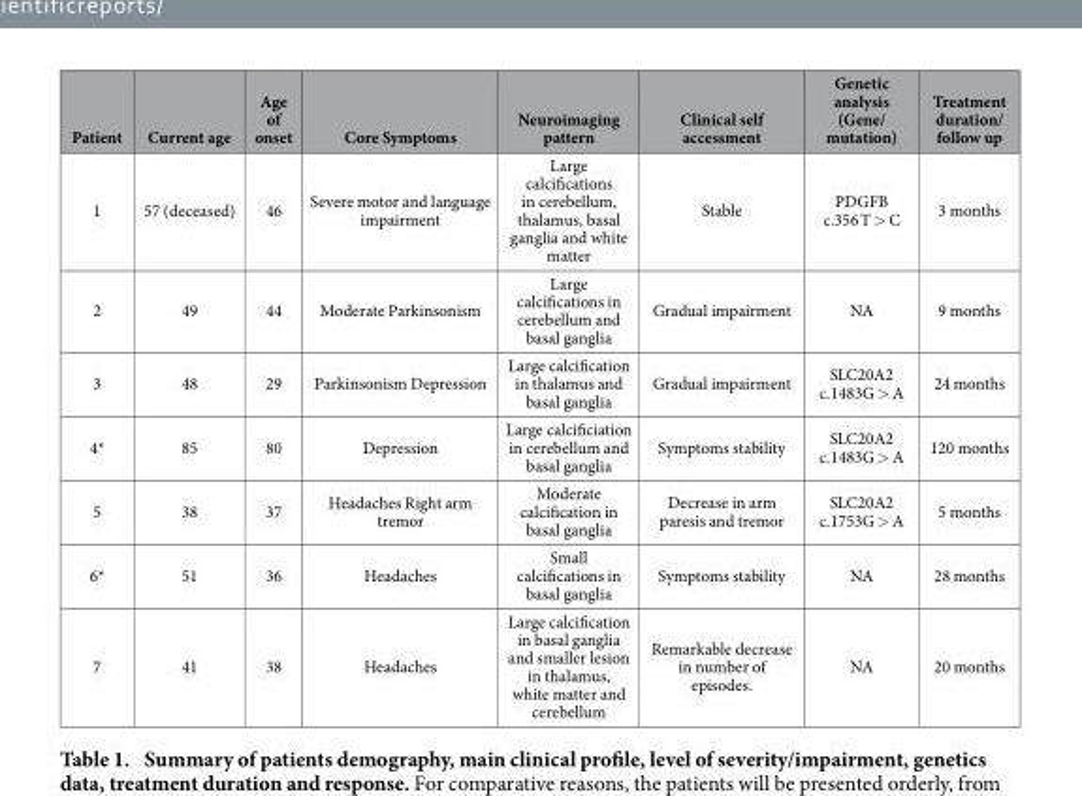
<table><thead><tr><td>Patient</td><td>Current age</td><td>Age of onset</td><td>Core Symptoms</td><td>Neuroimaging pattern</td><td>Clinical self accessment</td><td>Genetic analysis (Gene/ mutation)</td><td>Treatment duration/ follow up</td></tr></thead><tbody><tr><td>1</td><td>57 (deceased)</td><td>46</td><td>Severe motor and language impairment</td><td>Large calcifications in cerebellum, thalamus, basal ganglia and white matter</td><td>Stable</td><td>PDGFB c.356 T &gt; C</td><td>3 months</td></tr><tr><td>2</td><td>49</td><td>44</td><td>Moderate Parkinsonism</td><td>Large calcifications in cerebellum and basal ganglia</td><td>Gradual impairment</td><td>NA</td><td>9 months</td></tr><tr><td>3</td><td>48</td><td>29</td><td>Parkinsonism Depression</td><td>Large calcification in thalamus and basal ganglia</td><td>Gradual impairment</td><td>SLC20A2 c.1483G &gt; A</td><td>24 months</td></tr><tr><td>4*</td><td>85</td><td>80</td><td>Depression</td><td>Large calcificiation in cerebellum and basal ganglia</td><td>Symptoms stability</td><td>SLC20A2 c.1483G &gt; A</td><td>120 months</td></tr><tr><td>5</td><td>38</td><td>37</td><td>Headaches Right arm tremor</td><td>Moderate calcification in basal ganglia</td><td>Decrease in arm paresis and tremor</td><td>SLC20A2 c.1753G &gt; A</td><td>5 months</td></tr><tr><td>6*</td><td>51</td><td>36</td><td>Headaches</td><td>Small calcifications in basal ganglia</td><td>Symptoms stability</td><td>NA</td><td>28 months</td></tr><tr><td>7</td><td>41</td><td>38</td><td>Headaches</td><td>Large calcification in basal ganglia and smaller lesion in thalamus, white matter and cerebellum</td><td>Remarkable decrease in number of episodes.</td><td>NA</td><td>20 months</td></tr></tbody></table>